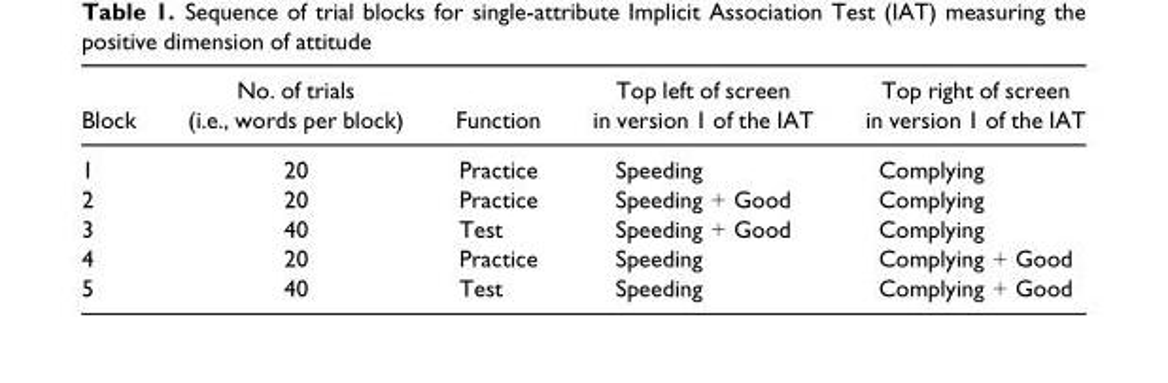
<table><thead><tr><td>Block</td><td>No. of trials (i.e., words per block)</td><td>Function</td><td>Top left of screen in version 1 of the IAT</td><td>Top right of screen in version 1 of the IAT</td></tr></thead><tbody><tr><td>1</td><td>20</td><td>Practice</td><td>Speeding</td><td>Complying</td></tr><tr><td>2</td><td>20</td><td>Practice</td><td>Speeding + Good</td><td>Complying</td></tr><tr><td>3</td><td>40</td><td>Test</td><td>Speeding + Good</td><td>Complying</td></tr><tr><td>4</td><td>20</td><td>Practice</td><td>Speeding</td><td>Complying + Good</td></tr><tr><td>5</td><td>40</td><td>Test</td><td>Speeding</td><td>Complying + Good</td></tr></tbody></table>